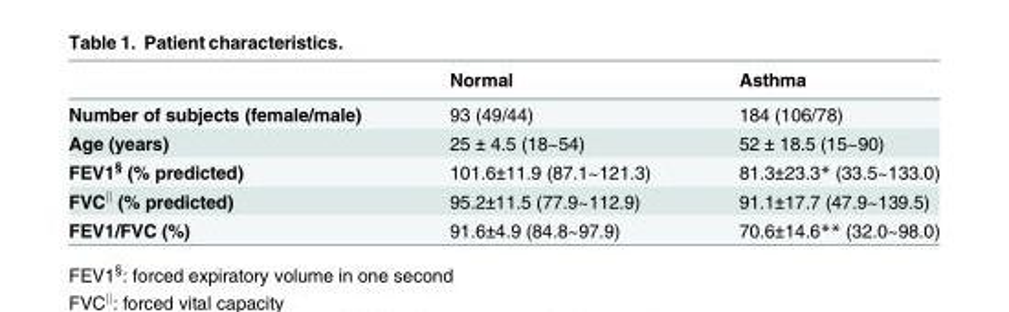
<table><thead><tr><td></td><td>Normal</td><td>Asthma</td></tr></thead><tbody><tr><td>Number of subjects (female/male)</td><td>93 (49/44)</td><td>184 (106/78)</td></tr><tr><td>Age (years)</td><td>25 ± 4.5 (18~54)</td><td>52 ± 18.5 (15~90)</td></tr><tr><td>FEV1<sup>§</sup> (% predicted)</td><td>101.6±11.9 (87.1~121.3)</td><td>81.3±23.3* (33.5~133.0)</td></tr><tr><td>FVC<sup>∥</sup> (% predicted)</td><td>95.2±11.5 (77.9~112.9)</td><td>91.1±17.7 (47.9~139.5)</td></tr><tr><td>FEV1/FVC (%)</td><td>91.6±4.9 (84.8~97.9)</td><td>70.6±14.6** (32.0~98.0)</td></tr></tbody></table>